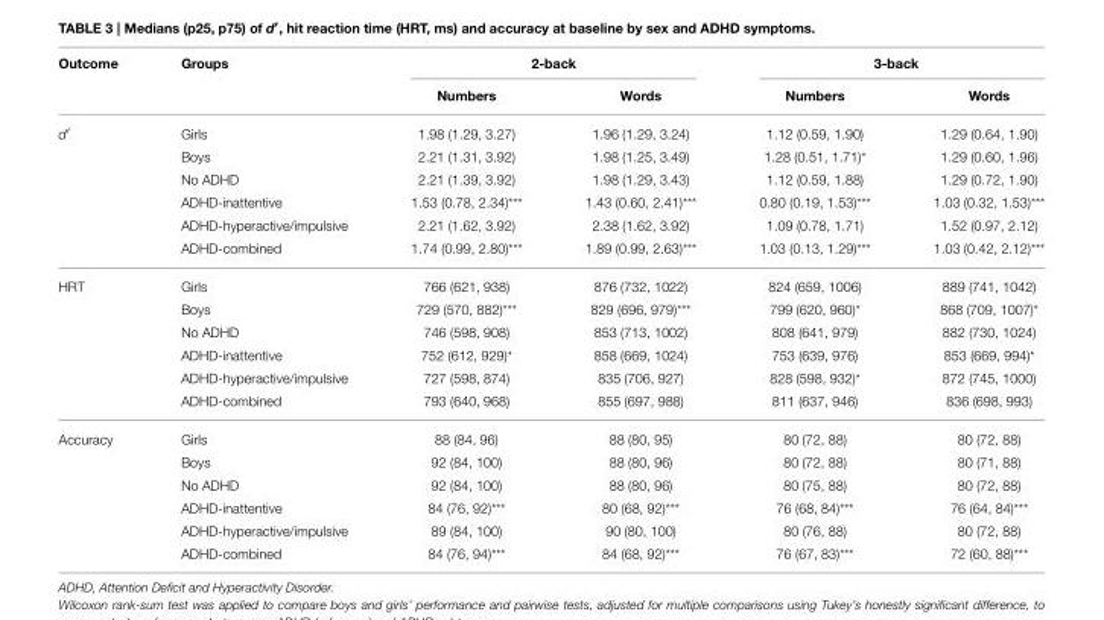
<table><thead><tr><td rowspan="2">Outcome</td><td rowspan="2">Groups</td><td colspan="2">2-back</td><td colspan="2">3-back</td></tr><tr><td>Numbers</td><td>Words</td><td>Numbers</td><td>Words</td></tr></thead><tbody><tr><td rowspan="6">d′</td><td>Girls</td><td>1.98 (1.29, 3.27)</td><td>1.96 (1.29, 3.24)</td><td>1.12 (0.59, 1.90)</td><td>1.29 (0.64, 1.90)</td></tr><tr><td>Boys</td><td>2.21 (1.31, 3.92)</td><td>1.98 (1.25, 3.49)</td><td>1.28 (0.51, 1.71)*</td><td>1.29 (0.60, 1.96)</td></tr><tr><td>No ADHD</td><td>2.21 (1.39, 3.92)</td><td>1.98 (1.29, 3.43)</td><td>1.12 (0.59, 1.88)</td><td>1.29 (0.72, 1.90)</td></tr><tr><td>ADHD-inattentive</td><td>1.53 (0.78, 2.34)***</td><td>1.43 (0.60, 2.41)***</td><td>0.80 (0.19, 1.53)***</td><td>1.03 (0.32, 1.53)***</td></tr><tr><td>ADHD-hyperactive/impulsive</td><td>2.21 (1.62, 3.92)</td><td>2.38 (1.62, 3.92)</td><td>1.09 (0.78, 1.71)</td><td>1.52 (0.97, 2.12)</td></tr><tr><td>ADHD-combined</td><td>1.74 (0.99, 2.80)***</td><td>1.89 (0.99, 2.63)***</td><td>1.03 (0.13, 1.29)***</td><td>1.03 (0.42, 2.12)***</td></tr><tr><td rowspan="6">HRT</td><td>Girls</td><td>766 (621, 938)</td><td>876 (732, 1022)</td><td>824 (659, 1006)</td><td>889 (741, 1042)</td></tr><tr><td>Boys</td><td>729 (570, 882)***</td><td>829 (696, 979)***</td><td>799 (620, 960)*</td><td>868 (709, 1007)*</td></tr><tr><td>No ADHD</td><td>746 (598, 908)</td><td>853 (713, 1002)</td><td>808 (641, 979)</td><td>882 (730, 1024)</td></tr><tr><td>ADHD-inattentive</td><td>752 (612, 929)*</td><td>858 (669, 1024)</td><td>753 (639, 976)</td><td>853 (669, 994)*</td></tr><tr><td>ADHD-hyperactive/impulsive</td><td>727 (598, 874)</td><td>835 (706, 927)</td><td>828 (598, 932)*</td><td>872 (745, 1000)</td></tr><tr><td>ADHD-combined</td><td>793 (640, 968)</td><td>855 (697, 988)</td><td>811 (637, 946)</td><td>836 (698, 993)</td></tr><tr><td rowspan="6">Accuracy</td><td>Girls</td><td>88 (84, 96)</td><td>88 (80, 95)</td><td>80 (72, 88)</td><td>80 (72, 88)</td></tr><tr><td>Boys</td><td>92 (84, 100)</td><td>88 (80, 96)</td><td>80 (72, 88)</td><td>80 (71, 88)</td></tr><tr><td>No ADHD</td><td>92 (84, 100)</td><td>88 (80, 96)</td><td>80 (75, 88)</td><td>80 (72, 88)</td></tr><tr><td>ADHD-inattentive</td><td>84 (76, 92)***</td><td>80 (68, 92)***</td><td>76 (68, 84)***</td><td>76 (64, 84)***</td></tr><tr><td>ADHD-hyperactive/impulsive</td><td>89 (84, 100)</td><td>90 (80, 100)</td><td>80 (76, 88)</td><td>80 (72, 88)</td></tr><tr><td>ADHD-combined</td><td>84 (76, 94)***</td><td>84 (68, 92)***</td><td>76 (67, 83)***</td><td>72 (60, 88)***</td></tr></tbody></table>